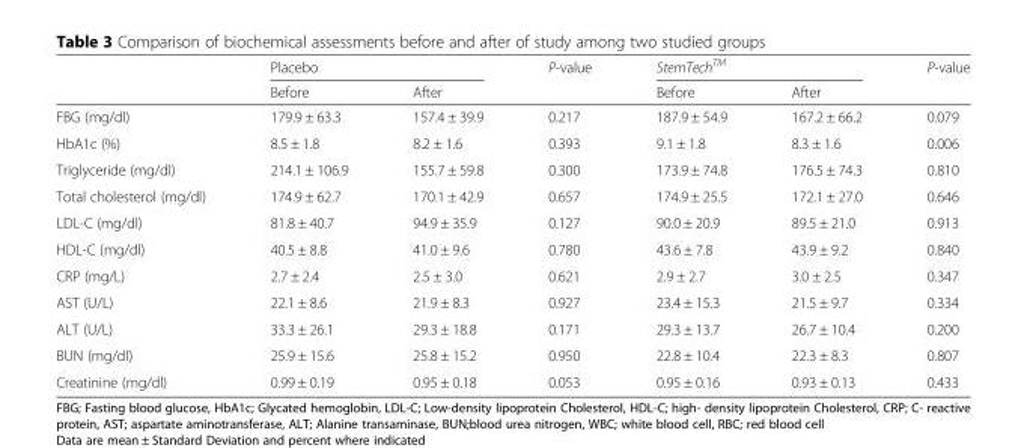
<table><thead><tr><td rowspan="2"></td><td colspan="2">Placebo</td><td rowspan="2">P-value</td><td colspan="2">StemTech<sup>TM</sup></td><td rowspan="2">P-value</td></tr><tr><td>Before</td><td>After</td><td>Before</td><td>After</td></tr></thead><tbody><tr><td>FBG (mg/dl)</td><td>179.9 ± 63.3</td><td>157.4 ± 39.9</td><td>0.217</td><td>187.9 ± 54.9</td><td>167.2 ± 66.2</td><td>0.079</td></tr><tr><td>HbA1c (%)</td><td>8.5 ± 1.8</td><td>8.2 ± 1.6</td><td>0.393</td><td>9.1 ± 1.8</td><td>8.3 ± 1.6</td><td>0.006</td></tr><tr><td>Triglyceride (mg/dl)</td><td>214.1 ± 106.9</td><td>155.7 ± 59.8</td><td>0.300</td><td>173.9 ± 74.8</td><td>176.5 ± 74.3</td><td>0.810</td></tr><tr><td>Total cholesterol (mg/dl)</td><td>174.9 ± 62.7</td><td>170.1 ± 42.9</td><td>0.657</td><td>174.9 ± 25.5</td><td>172.1 ± 27.0</td><td>0.646</td></tr><tr><td>LDL-C (mg/dl)</td><td>81.8 ± 40.7</td><td>94.9 ± 35.9</td><td>0.127</td><td>90.0 ± 20.9</td><td>89.5 ± 21.0</td><td>0.913</td></tr><tr><td>HDL-C (mg/dl)</td><td>40.5 ± 8.8</td><td>41.0 ± 9.6</td><td>0.780</td><td>43.6 ± 7.8</td><td>43.9 ± 9.2</td><td>0.840</td></tr><tr><td>CRP (mg/L)</td><td>2.7 ± 2.4</td><td>2.5 ± 3.0</td><td>0.621</td><td>2.9 ± 2.7</td><td>3.0 ± 2.5</td><td>0.347</td></tr><tr><td>AST (U/L)</td><td>22.1 ± 8.6</td><td>21.9 ± 8.3</td><td>0.927</td><td>23.4 ± 15.3</td><td>21.5 ± 9.7</td><td>0.334</td></tr><tr><td>ALT (U/L)</td><td>33.3 ± 26.1</td><td>29.3 ± 18.8</td><td>0.171</td><td>29.3 ± 13.7</td><td>26.7 ± 10.4</td><td>0.200</td></tr><tr><td>BUN (mg/dl)</td><td>25.9 ± 15.6</td><td>25.8 ± 15.2</td><td>0.950</td><td>22.8 ± 10.4</td><td>22.3 ± 8.3</td><td>0.807</td></tr><tr><td>Creatinine (mg/dl)</td><td>0.99 ± 0.19</td><td>0.95 ± 0.18</td><td>0.053</td><td>0.95 ± 0.16</td><td>0.93 ± 0.13</td><td>0.433</td></tr></tbody></table>